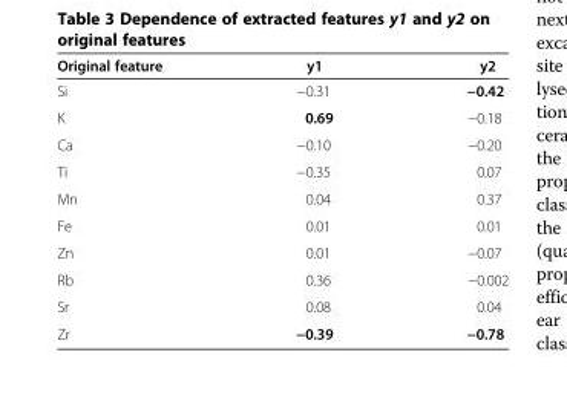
<table><thead><tr><td>Original feature</td><td>y1</td><td>y2</td></tr></thead><tbody><tr><td>Si</td><td>−0.31</td><td>−0.42</td></tr><tr><td>K</td><td>0.69</td><td>−0.18</td></tr><tr><td>Ca</td><td>−0.10</td><td>−0.20</td></tr><tr><td>Ti</td><td>−0.35</td><td>0.07</td></tr><tr><td>Mn</td><td>0.04</td><td>0.37</td></tr><tr><td>Fe</td><td>0.01</td><td>0.01</td></tr><tr><td>Zn</td><td>0.01</td><td>−0.07</td></tr><tr><td>Rb</td><td>0.36</td><td>−0.002</td></tr><tr><td>Sr</td><td>0.08</td><td>0.04</td></tr><tr><td>Zr</td><td>−0.39</td><td>−0.78</td></tr></tbody></table>